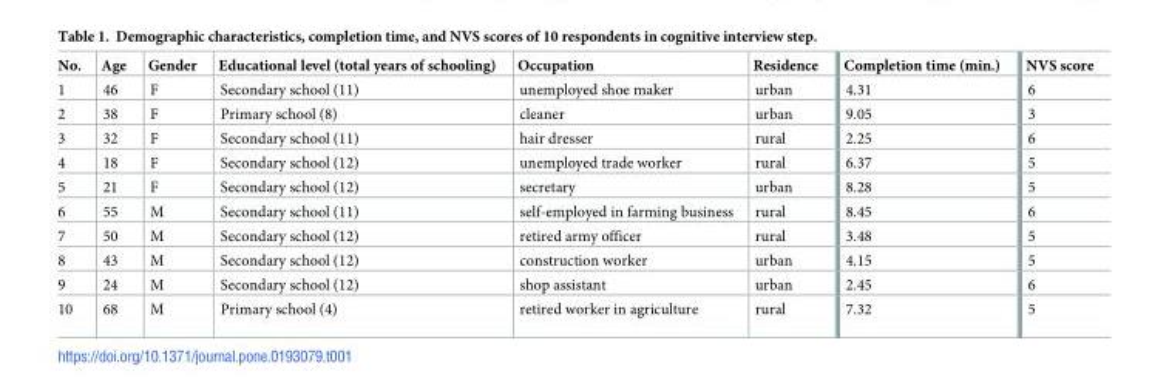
<table><thead><tr><td>No.</td><td>Age</td><td>Gender</td><td>Educational level (total years of schooling)</td><td>Occupation</td><td>Residence</td><td>Completion time (min.)</td><td>NVS score</td></tr></thead><tbody><tr><td>1</td><td>46</td><td>F</td><td>Secondary school (11)</td><td>unemployed shoe maker</td><td>urban</td><td>4.31</td><td>6</td></tr><tr><td>2</td><td>38</td><td>F</td><td>Primary school (8)</td><td>cleaner</td><td>urban</td><td>9.05</td><td>3</td></tr><tr><td>3</td><td>32</td><td>F</td><td>Secondary school (11)</td><td>hair dresser</td><td>rural</td><td>2.25</td><td>6</td></tr><tr><td>4</td><td>18</td><td>F</td><td>Secondary school (12)</td><td>unemployed trade worker</td><td>rural</td><td>6.37</td><td>5</td></tr><tr><td>5</td><td>21</td><td>F</td><td>Secondary school (12)</td><td>secretary</td><td>urban</td><td>8.28</td><td>5</td></tr><tr><td>6</td><td>55</td><td>M</td><td>Secondary school (11)</td><td>self-employed in farming business</td><td>rural</td><td>8.45</td><td>6</td></tr><tr><td>7</td><td>50</td><td>M</td><td>Secondary school (12)</td><td>retired army officer</td><td>rural</td><td>3.48</td><td>5</td></tr><tr><td>8</td><td>43</td><td>M</td><td>Secondary school (12)</td><td>construction worker</td><td>urban</td><td>4.15</td><td>5</td></tr><tr><td>9</td><td>24</td><td>M</td><td>Secondary school (12)</td><td>shop assistant</td><td>urban</td><td>2.45</td><td>6</td></tr><tr><td>10</td><td>68</td><td>M</td><td>Primary school (4)</td><td>retired worker in agriculture</td><td>rural</td><td>7.32</td><td>5</td></tr></tbody></table>